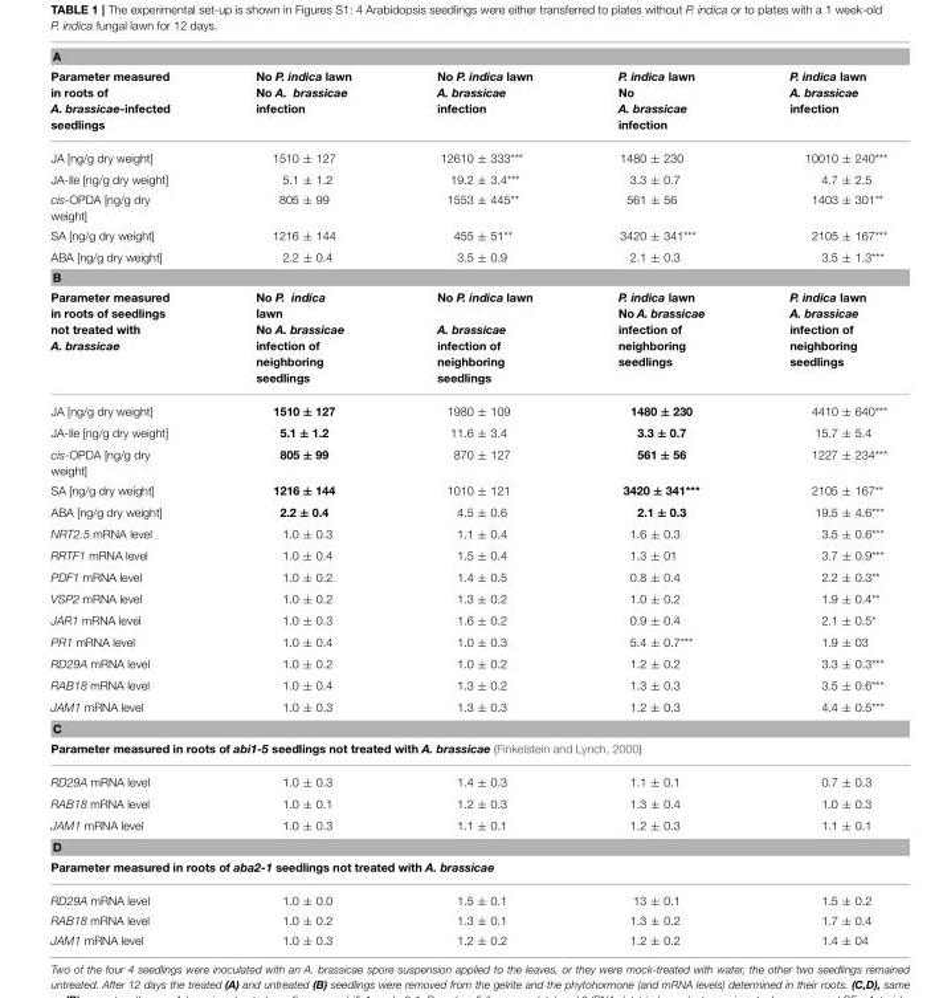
<table><thead><tr><td colspan="5">A</td></tr><tr><td>Parameter measured in roots of A. brassicae-infected seedlings</td><td>No P. indica lawn No A. brassicae infection</td><td>No P. indica lawn A. brassicae infection</td><td>P. indica lawn No A. brassicae infection</td><td>P. indica lawn A. brassicae infection</td></tr></thead><tbody><tr><td>JA [ng/g dry weight]</td><td>1510 ± 127</td><td>12610 ± 333***</td><td>1480 ± 230</td><td>10010 ± 240***</td></tr><tr><td>JA-Ile [ng/g dry weight]</td><td>5.1 ± 1.2</td><td>19.2 ± 3.4***</td><td>3.3 ± 0.7</td><td>4.7 ± 2.5</td></tr><tr><td>cis-OPDA [ng/g dry weight]</td><td>805 ± 99</td><td>1553 ± 445**</td><td>561 ± 56</td><td>1403 ± 301**</td></tr><tr><td>SA [ng/g dry weight]</td><td>1216 ± 144</td><td>455 ± 51**</td><td>3420 ± 341***</td><td>2105 ± 167***</td></tr><tr><td>ABA [ng/g dry weight]</td><td>2.2 ± 0.4</td><td>3.5 ± 0.9</td><td>2.1 ± 0.3</td><td>3.5 ± 1.3***</td></tr><tr><td colspan="5">B</td></tr><tr><td>Parameter measured in roots of seedlings not treated with A. brassicae</td><td>No P. indica lawn No A. brassicae infection of neighboring seedlings</td><td>No P. indica lawn A. brassicae infection of neighboring seedlings</td><td>P. indica lawn No A. brassicae infection of neighboring seedlings</td><td>P. indica lawn A. brassicae infection of neighboring seedlings</td></tr><tr><td>JA [ng/g dry weight]</td><td>1510 ± 127</td><td>1980 ± 109</td><td>1480 ± 230</td><td>4410 ± 640***</td></tr><tr><td>JA-Ile [ng/g dry weight]</td><td>5.1 ± 1.2</td><td>11.6 ± 3.4</td><td>3.3 ± 0.7</td><td>15.7 ± 5.4</td></tr><tr><td>cis-OPDA [ng/g dry weight]</td><td>805 ± 99</td><td>870 ± 127</td><td>561 ± 56</td><td>1227 ± 234***</td></tr><tr><td>SA [ng/g dry weight]</td><td>1216 ± 144</td><td>1010 ± 121</td><td>3420 ± 341***</td><td>2105 ± 167**</td></tr><tr><td>ABA [ng/g dry weight]</td><td>2.2 ± 0.4</td><td>4.5 ± 0.6</td><td>2.1 ± 0.3</td><td>19.5 ± 4.6***</td></tr><tr><td>NRT2.5 mRNA level</td><td>1.0 ± 0.3</td><td>1.1 ± 0.4</td><td>1.6 ± 0.3</td><td>3.5 ± 0.6***</td></tr><tr><td>RRTF1 mRNA level</td><td>1.0 ± 0.4</td><td>1.5 ± 0.4</td><td>1.3 ± 01</td><td>3.7 ± 0.9***</td></tr><tr><td>PDF1 mRNA level</td><td>1.0 ± 0.2</td><td>1.4 ± 0.5</td><td>0.8 ± 0.4</td><td>2.2 ± 0.3**</td></tr><tr><td>VSP2 mRNA level</td><td>1.0 ± 0.2</td><td>1.3 ± 0.2</td><td>1.0 ± 0.2</td><td>1.9 ± 0.4**</td></tr><tr><td>JAR1 mRNA level</td><td>1.0 ± 0.3</td><td>1.6 ± 0.2</td><td>0.9 ± 0.4</td><td>2.1 ± 0.5*</td></tr><tr><td>PR1 mRNA level</td><td>1.0 ± 0.4</td><td>1.0 ± 0.3</td><td>5.4 ± 0.7***</td><td>1.9 ± 03</td></tr><tr><td>RD29A mRNA level</td><td>1.0 ± 0.2</td><td>1.0 ± 0.2</td><td>1.2 ± 0.2</td><td>3.3 ± 0.3***</td></tr><tr><td>RAB18 mRNA level</td><td>1.0 ± 0.4</td><td>1.3 ± 0.2</td><td>1.3 ± 0.3</td><td>3.5 ± 0.6***</td></tr><tr><td>JAM1 mRNA level</td><td>1.0 ± 0.3</td><td>1.3 ± 0.3</td><td>1.2 ± 0.3</td><td>4.4 ± 0.5***</td></tr><tr><td colspan="5">C</td></tr><tr><td colspan="5">Parameter measured in roots of abi1-5 seedlings not treated with A. brassicae (Finkelstein and Lynch, 2000)</td></tr><tr><td>RD29A mRNA level</td><td>1.0 ± 0.3</td><td>1.4 ± 0.3</td><td>1.1 ± 0.1</td><td>0.7 ± 0.3</td></tr><tr><td>RAB18 mRNA level</td><td>1.0 ± 0.1</td><td>1.2 ± 0.3</td><td>1.3 ± 0.4</td><td>1.0 ± 0.3</td></tr><tr><td>JAM1 mRNA level</td><td>1.0 ± 0.3</td><td>1.1 ± 0.1</td><td>1.2 ± 0.3</td><td>1.1 ± 0.1</td></tr><tr><td colspan="5">D</td></tr><tr><td colspan="5">Parameter measured in roots of aba2-1 seedlings not treated with A. brassicae</td></tr><tr><td>RD29A mRNA level</td><td>1.0 ± 0.0</td><td>1.5 ± 0.1</td><td>13 ± 0.1</td><td>1.5 ± 0.2</td></tr><tr><td>RAB18 mRNA level</td><td>1.0 ± 0.2</td><td>1.3 ± 0.1</td><td>1.3 ± 0.2</td><td>1.7 ± 0.4</td></tr><tr><td>JAM1 mRNA level</td><td>1.0 ± 0.3</td><td>1.2 ± 0.2</td><td>1.2 ± 0.2</td><td>1.4 ± 04</td></tr></tbody></table>